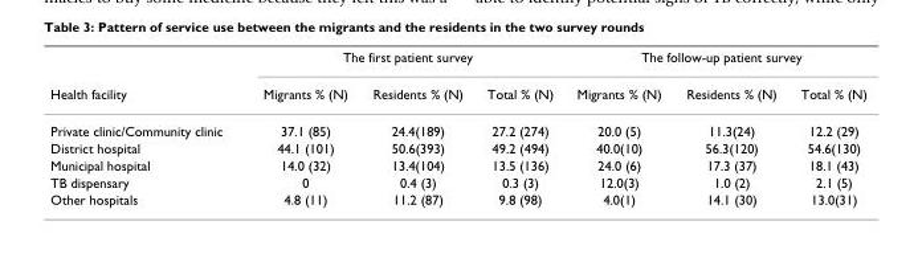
<table><thead><tr><td rowspan="2">Health facility</td><td colspan="3">The first patient survey</td><td colspan="3">The follow-up patient survey</td></tr><tr><td>Migrants % (N)</td><td>Residents % (N)</td><td>Total % (N)</td><td>Migrants % (N)</td><td>Residents % (N)</td><td>Total % (N)</td></tr></thead><tbody><tr><td>Private clinic/Community clinic</td><td>37.1 (85)</td><td>24.4(189)</td><td>27.2 (274)</td><td>20.0 (5)</td><td>11.3(24)</td><td>12.2 (29)</td></tr><tr><td>District hospital</td><td>44.1 (101)</td><td>50.6(393)</td><td>49.2 (494)</td><td>40.0(10)</td><td>56.3(120)</td><td>54.6(130)</td></tr><tr><td>Municipal hospital</td><td>14.0 (32)</td><td>13.4(104)</td><td>13.5 (136)</td><td>24.0 (6)</td><td>17.3 (37)</td><td>18.1 (43)</td></tr><tr><td>TB dispensary</td><td>0</td><td>0.4 (3)</td><td>0.3 (3)</td><td>12.0(3)</td><td>1.0 (2)</td><td>2.1 (5)</td></tr><tr><td>Other hospitals</td><td>4.8 (11)</td><td>11.2 (87)</td><td>9.8 (98)</td><td>4.0(1)</td><td>14.1 (30)</td><td>13.0(31)</td></tr></tbody></table>